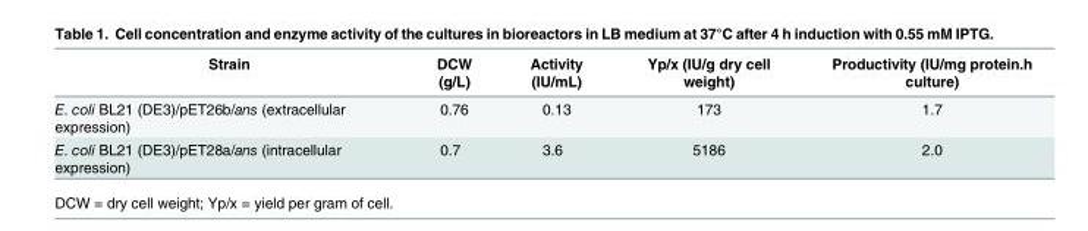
<table><thead><tr><td>Strain</td><td>DCW (g/L)</td><td>Activity (IU/mL)</td><td>Yp/x (IU/g dry cell weight)</td><td>Productivity (IU/mg protein.h culture)</td></tr></thead><tbody><tr><td>E. coli BL21 (DE3)/pET26b/ans (extracellular expression)</td><td>0.76</td><td>0.13</td><td>173</td><td>1.7</td></tr><tr><td>E. coli BL21 (DE3)/pET28a/ans (intracellular expression)</td><td>0.7</td><td>3.6</td><td>5186</td><td>2.0</td></tr></tbody></table>